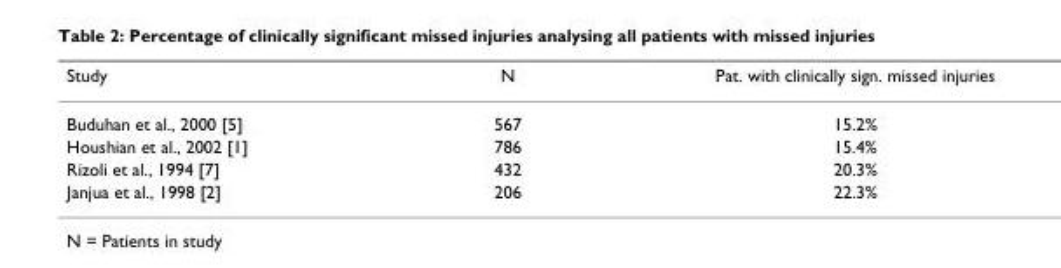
<table><thead><tr><td>Study</td><td>N</td><td>Pat. with clinically sign. missed injuries</td></tr></thead><tbody><tr><td>Buduhan et al., 2000 [5]</td><td>567</td><td>15.2%</td></tr><tr><td>Houshian et al., 2002 [1]</td><td>786</td><td>15.4%</td></tr><tr><td>Rizoli et al., 1994 [7]</td><td>432</td><td>20.3%</td></tr><tr><td>Janjua et al., 1998 [2]</td><td>206</td><td>22.3%</td></tr></tbody></table>